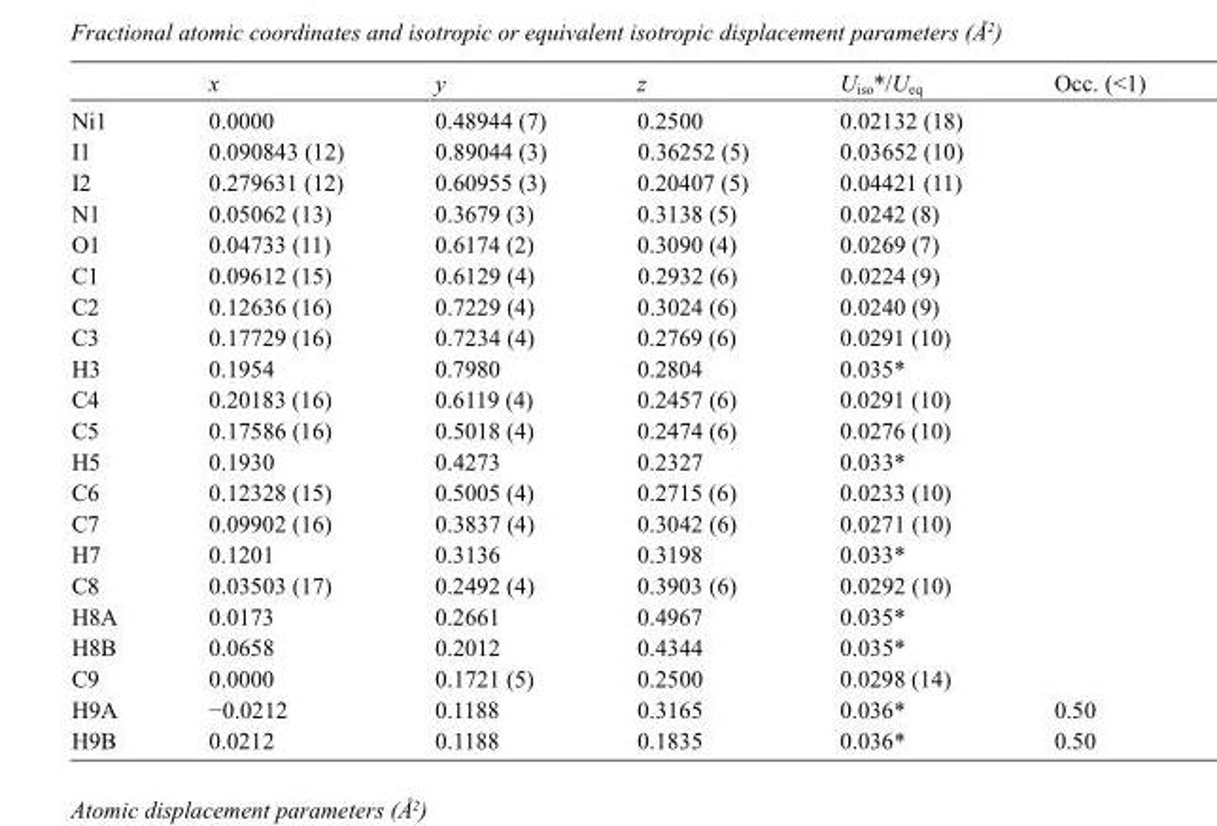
<table><thead><tr><td></td><td>x</td><td>y</td><td>z</td><td>U<sub>iso</sub>*/U<sub>eq</sub></td><td>Occ. (&lt;1)</td></tr></thead><tbody><tr><td>Ni1</td><td>0.0000</td><td>0.48944 (7)</td><td>0.2500</td><td>0.02132 (18)</td><td></td></tr><tr><td>I1</td><td>0.090843 (12)</td><td>0.89044 (3)</td><td>0.36252 (5)</td><td>0.03652 (10)</td><td></td></tr><tr><td>I2</td><td>0.279631 (12)</td><td>0.60955 (3)</td><td>0.20407 (5)</td><td>0.04421 (11)</td><td></td></tr><tr><td>N1</td><td>0.05062 (13)</td><td>0.3679 (3)</td><td>0.3138 (5)</td><td>0.0242 (8)</td><td></td></tr><tr><td>O1</td><td>0.04733 (11)</td><td>0.6174 (2)</td><td>0.3090 (4)</td><td>0.0269 (7)</td><td></td></tr><tr><td>C1</td><td>0.09612 (15)</td><td>0.6129 (4)</td><td>0.2932 (6)</td><td>0.0224 (9)</td><td></td></tr><tr><td>C2</td><td>0.12636 (16)</td><td>0.7229 (4)</td><td>0.3024 (6)</td><td>0.0240 (9)</td><td></td></tr><tr><td>C3</td><td>0.17729 (16)</td><td>0.7234 (4)</td><td>0.2769 (6)</td><td>0.0291 (10)</td><td></td></tr><tr><td>H3</td><td>0.1954</td><td>0.7980</td><td>0.2804</td><td>0.035*</td><td></td></tr><tr><td>C4</td><td>0.20183 (16)</td><td>0.6119 (4)</td><td>0.2457 (6)</td><td>0.0291 (10)</td><td></td></tr><tr><td>C5</td><td>0.17586 (16)</td><td>0.5018 (4)</td><td>0.2474 (6)</td><td>0.0276 (10)</td><td></td></tr><tr><td>H5</td><td>0.1930</td><td>0.4273</td><td>0.2327</td><td>0.033*</td><td></td></tr><tr><td>C6</td><td>0.12328 (15)</td><td>0.5005 (4)</td><td>0.2715 (6)</td><td>0.0233 (10)</td><td></td></tr><tr><td>C7</td><td>0.09902 (16)</td><td>0.3837 (4)</td><td>0.3042 (6)</td><td>0.0271 (10)</td><td></td></tr><tr><td>H7</td><td>0.1201</td><td>0.3136</td><td>0.3198</td><td>0.033*</td><td></td></tr><tr><td>C8</td><td>0.03503 (17)</td><td>0.2492 (4)</td><td>0.3903 (6)</td><td>0.0292 (10)</td><td></td></tr><tr><td>H8A</td><td>0.0173</td><td>0.2661</td><td>0.4967</td><td>0.035*</td><td></td></tr><tr><td>H8B</td><td>0.0658</td><td>0.2012</td><td>0.4344</td><td>0.035*</td><td></td></tr><tr><td>C9</td><td>0.0000</td><td>0.1721 (5)</td><td>0.2500</td><td>0.0298 (14)</td><td></td></tr><tr><td>H9A</td><td>−0.0212</td><td>0.1188</td><td>0.3165</td><td>0.036*</td><td>0.50</td></tr><tr><td>H9B</td><td>0.0212</td><td>0.1188</td><td>0.1835</td><td>0.036*</td><td>0.50</td></tr></tbody></table>